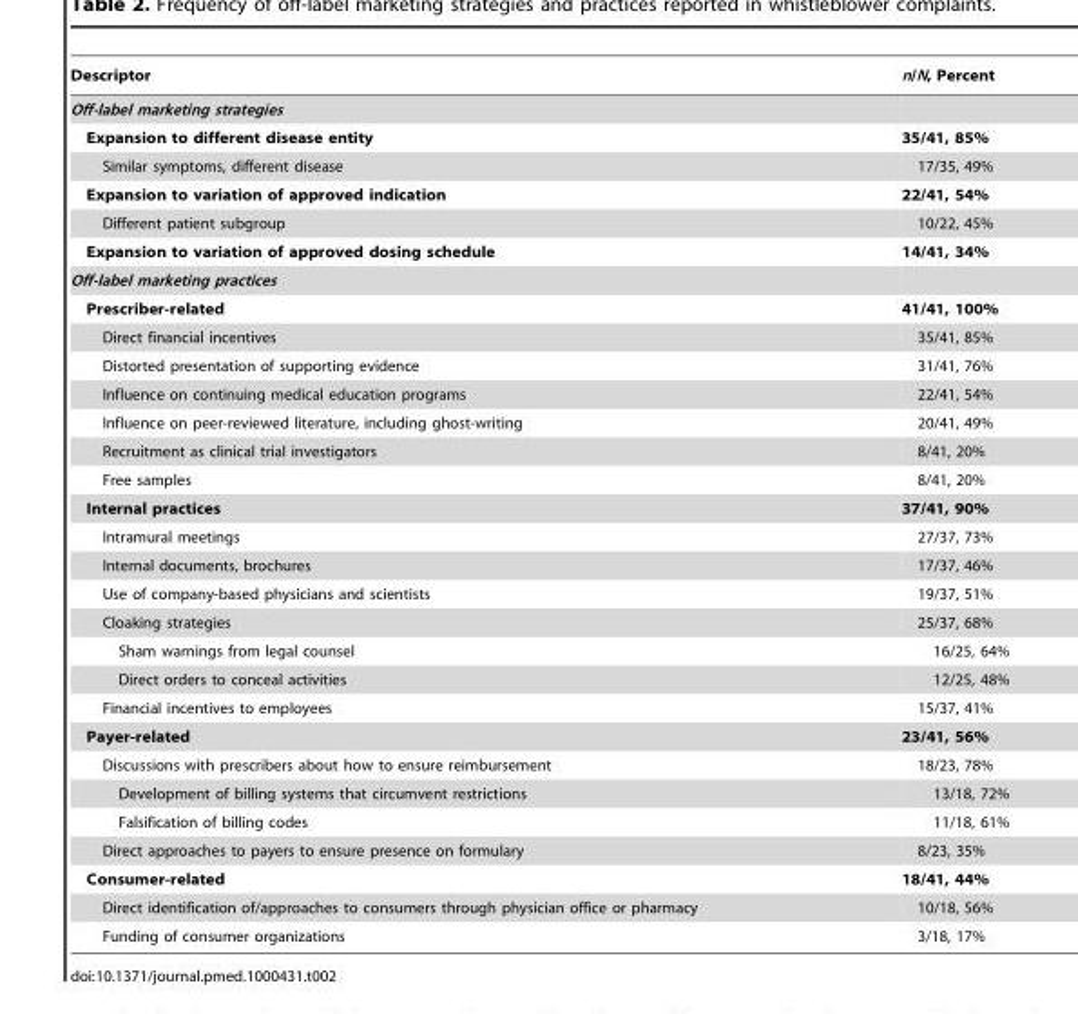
<table><thead><tr><td>Descriptor</td><td>n/N, Percent</td></tr></thead><tbody><tr><td colspan="2">Off-label marketing strategies</td></tr><tr><td>Expansion to different disease entity</td><td>35/41, 85%</td></tr><tr><td>Similar symptoms, different disease</td><td>17/35, 49%</td></tr><tr><td>Expansion to variation of approved indication</td><td>22/41, 54%</td></tr><tr><td>Different patient subgroup</td><td>10/22, 45%</td></tr><tr><td>Expansion to variation of approved dosing schedule</td><td>14/41, 34%</td></tr><tr><td colspan="2">Off-label marketing practices</td></tr><tr><td>Prescriber-related</td><td>41/41, 100%</td></tr><tr><td>Direct financial incentives</td><td>35/41, 85%</td></tr><tr><td>Distorted presentation of supporting evidence</td><td>31/41, 76%</td></tr><tr><td>Influence on continuing medical education programs</td><td>22/41, 54%</td></tr><tr><td>Influence on peer-reviewed literature, including ghost-writing</td><td>20/41, 49%</td></tr><tr><td>Recruitment as clinical trial investigators</td><td>8/41, 20%</td></tr><tr><td>Free samples</td><td>8/41, 20%</td></tr><tr><td>Internal practices</td><td>37/41, 90%</td></tr><tr><td>Intramural meetings</td><td>27/37, 73%</td></tr><tr><td>Internal documents, brochures</td><td>17/37, 46%</td></tr><tr><td>Use of company-based physicians and scientists</td><td>19/37, 51%</td></tr><tr><td>Cloaking strategies</td><td>25/37, 68%</td></tr><tr><td>Sham warnings from legal counsel</td><td>16/25, 64%</td></tr><tr><td>Direct orders to conceal activities</td><td>12/25, 48%</td></tr><tr><td>Financial incentives to employees</td><td>15/37, 41%</td></tr><tr><td>Payer-related</td><td>23/41, 56%</td></tr><tr><td>Discussions with prescribers about how to ensure reimbursement</td><td>18/23, 78%</td></tr><tr><td>Development of billing systems that circumvent restrictions</td><td>13/18, 72%</td></tr><tr><td>Falsification of billing codes</td><td>11/18, 61%</td></tr><tr><td>Direct approaches to payers to ensure presence on formulary</td><td>8/23, 35%</td></tr><tr><td>Consumer-related</td><td>18/41, 44%</td></tr><tr><td>Direct identification of/approaches to consumers through physician office or pharmacy</td><td>10/18, 56%</td></tr><tr><td>Funding of consumer organizations</td><td>3/18, 17%</td></tr></tbody></table>